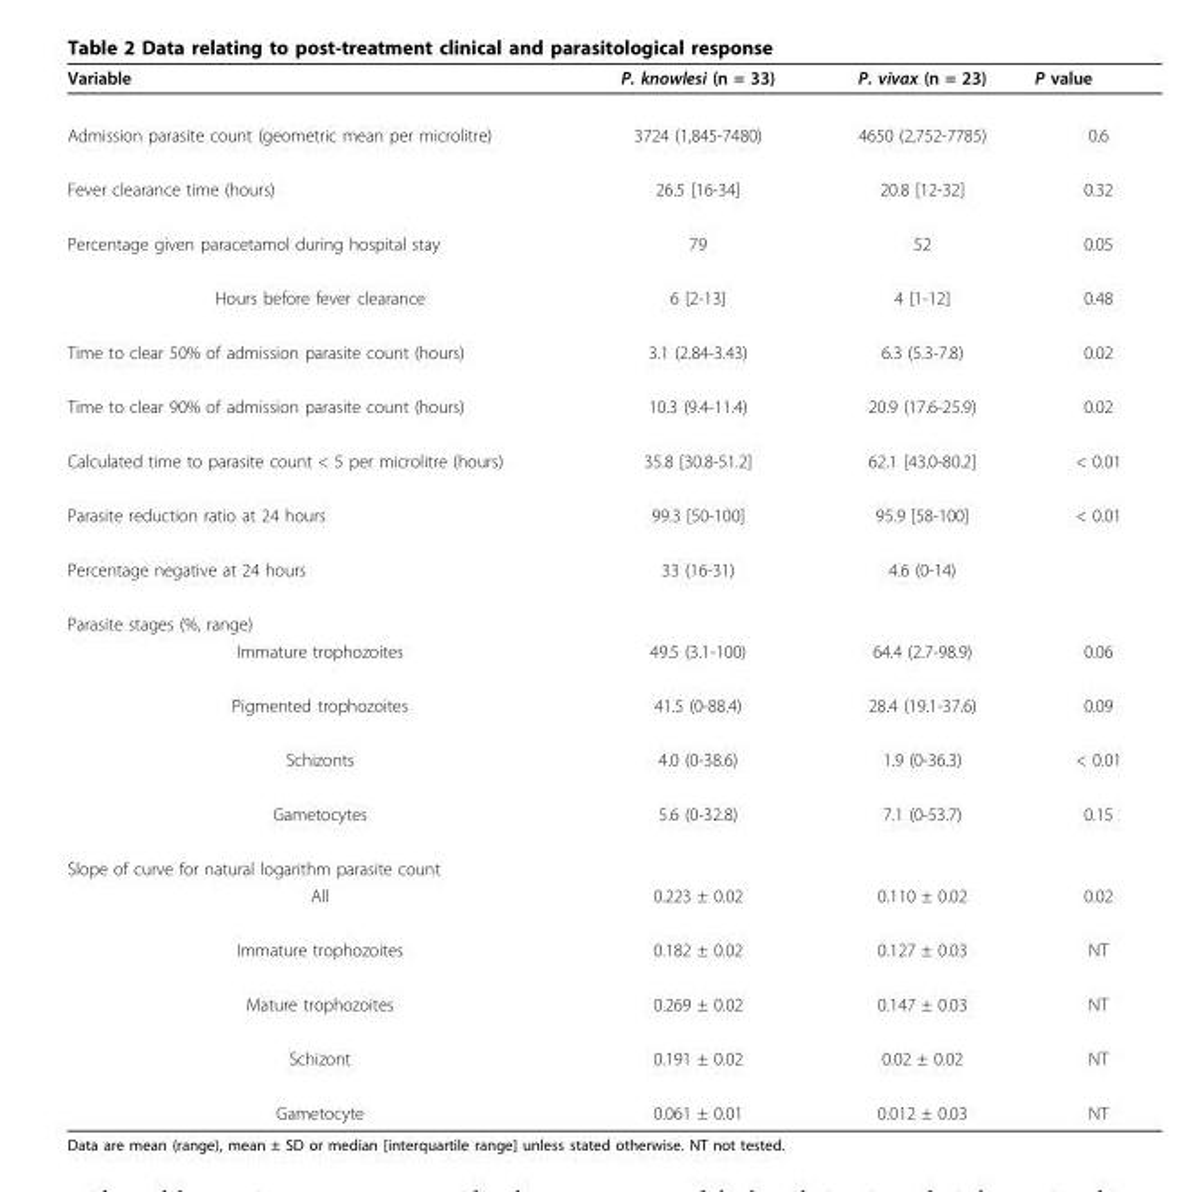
<table><thead><tr><td>Variable</td><td>P. knowlesi (n = 33)</td><td>P. vivax (n = 23)</td><td>P value</td></tr></thead><tbody><tr><td>Admission parasite count (geometric mean per microlitre)</td><td>3724 (1,845-7480)</td><td>4650 (2,752-7785)</td><td>0.6</td></tr><tr><td>Fever clearance time (hours)</td><td>26.5 [16-34]</td><td>20.8 [12-32]</td><td>0.32</td></tr><tr><td>Percentage given paracetamol during hospital stay</td><td>79</td><td>52</td><td>0.05</td></tr><tr><td>Hours before fever clearance</td><td>6 [2-13]</td><td>4 [1-12]</td><td>0.48</td></tr><tr><td>Time to clear 50% of admission parasite count (hours)</td><td>3.1 (2.84-3.43)</td><td>6.3 (5.3-7.8)</td><td>0.02</td></tr><tr><td>Time to clear 90% of admission parasite count (hours)</td><td>10.3 (9.4-11.4)</td><td>20.9 (17.6-25.9)</td><td>0.02</td></tr><tr><td>Calculated time to parasite count &lt; 5 per microlitre (hours)</td><td>35.8 [30.8-51.2]</td><td>62.1 [43.0-80.2]</td><td>&lt; 0.01</td></tr><tr><td>Parasite reduction ratio at 24 hours</td><td>99.3 [50-100]</td><td>95.9 [58-100]</td><td>&lt; 0.01</td></tr><tr><td>Percentage negative at 24 hours</td><td>33 (16-31)</td><td>4.6 (0-14)</td><td></td></tr><tr><td colspan="4">Parasite stages (%, range)</td></tr><tr><td>Immature trophozoites</td><td>49.5 (3.1-100)</td><td>64.4 (2.7-98.9)</td><td>0.06</td></tr><tr><td>Pigmented trophozoites</td><td>41.5 (0-88.4)</td><td>28.4 (19.1-37.6)</td><td>0.09</td></tr><tr><td>Schizonts</td><td>4.0 (0-38.6)</td><td>1.9 (0-36.3)</td><td>&lt; 0.01</td></tr><tr><td>Gametocytes</td><td>5.6 (0-32.8)</td><td>7.1 (0-53.7)</td><td>0.15</td></tr><tr><td colspan="4">Slope of curve for natural logarithm parasite count</td></tr><tr><td>All</td><td>0.223 ± 0.02</td><td>0.110 ± 0.02</td><td>0.02</td></tr><tr><td>Immature trophozoites</td><td>0.182 ± 0.02</td><td>0.127 ± 0.03</td><td>NT</td></tr><tr><td>Mature trophozoites</td><td>0.269 ± 0.02</td><td>0.147 ± 0.03</td><td>NT</td></tr><tr><td>Schizont</td><td>0.191 ± 0.02</td><td>0.02 ± 0.02</td><td>NT</td></tr><tr><td>Gametocyte</td><td>0.061 ± 0.01</td><td>0.012 ± 0.03</td><td>NT</td></tr></tbody></table>